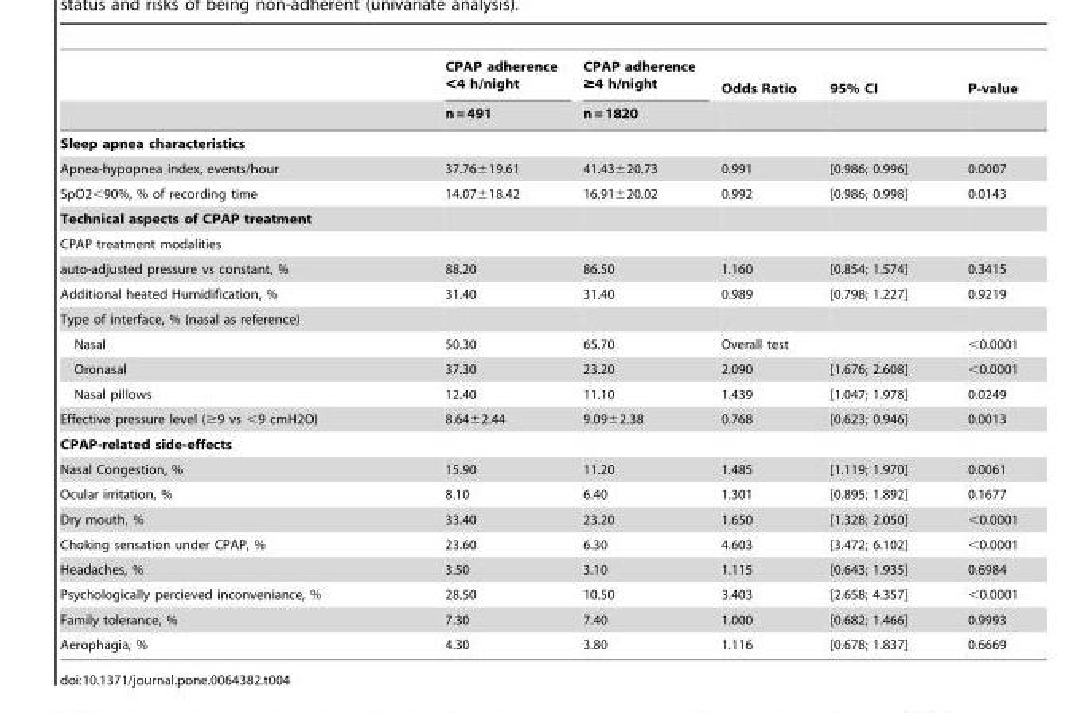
<table><thead><tr><td rowspan="2"></td><td rowspan="2">CPAP adherence &lt;4 h/night n = 491</td><td rowspan="2">CPAP adherence ≥4 h/night n = 1820</td><td rowspan="2">Odds Ratio</td><td rowspan="2">95% CI</td><td rowspan="2">P-value</td></tr><tr></tr></thead><tbody><tr><td colspan="6">Sleep apnea characteristics</td></tr><tr><td>Apnea-hypopnea index, events/hour</td><td>37.76±19.61</td><td>41.43±20.73</td><td>0.991</td><td>[0.986; 0.996]</td><td>0.0007</td></tr><tr><td>SpO2&lt;90%, % of recording time</td><td>14.07±18.42</td><td>16.91±20.02</td><td>0.992</td><td>[0.986; 0.998]</td><td>0.0143</td></tr><tr><td colspan="6">Technical aspects of CPAP treatment</td></tr><tr><td colspan="6">CPAP treatment modalities</td></tr><tr><td>auto-adjusted pressure vs constant, %</td><td>88.20</td><td>86.50</td><td>1.160</td><td>[0.854; 1.574]</td><td>0.3415</td></tr><tr><td>Additional heated Humidification, %</td><td>31.40</td><td>31.40</td><td>0.989</td><td>[0.798; 1.227]</td><td>0.9219</td></tr><tr><td colspan="6">Type of interface, % (nasal as reference)</td></tr><tr><td>Nasal</td><td>50.30</td><td>65.70</td><td colspan="2">Overall test</td><td>&lt;0.0001</td></tr><tr><td>Oronasal</td><td>37.30</td><td>23.20</td><td>2.090</td><td>[1.676; 2.608]</td><td>&lt;0.0001</td></tr><tr><td>Nasal pillows</td><td>12.40</td><td>11.10</td><td>1.439</td><td>[1.047; 1.978]</td><td>0.0249</td></tr><tr><td>Effective pressure level (≥9 vs &lt;9 cmH2O)</td><td>8.64±2.44</td><td>9.09±2.38</td><td>0.768</td><td>[0.623; 0.946]</td><td>0.0013</td></tr><tr><td colspan="6">CPAP-related side-effects</td></tr><tr><td>Nasal Congestion, %</td><td>15.90</td><td>11.20</td><td>1.485</td><td>[1.119; 1.970]</td><td>0.0061</td></tr><tr><td>Ocular irritation, %</td><td>8.10</td><td>6.40</td><td>1.301</td><td>[0.895; 1.892]</td><td>0.1677</td></tr><tr><td>Dry mouth, %</td><td>33.40</td><td>23.20</td><td>1.650</td><td>[1.328; 2.050]</td><td>&lt;0.0001</td></tr><tr><td>Choking sensation under CPAP, %</td><td>23.60</td><td>6.30</td><td>4.603</td><td>[3.472; 6.102]</td><td>&lt;0.0001</td></tr><tr><td>Headaches, %</td><td>3.50</td><td>3.10</td><td>1.115</td><td>[0.643; 1.935]</td><td>0.6984</td></tr><tr><td>Psychologically percieved inconveniance, %</td><td>28.50</td><td>10.50</td><td>3.403</td><td>[2.658; 4.357]</td><td>&lt;0.0001</td></tr><tr><td>Family tolerance, %</td><td>7.30</td><td>7.40</td><td>1.000</td><td>[0.682; 1.466]</td><td>0.9993</td></tr><tr><td>Aerophagia, %</td><td>4.30</td><td>3.80</td><td>1.116</td><td>[0.678; 1.837]</td><td>0.6669</td></tr></tbody></table>